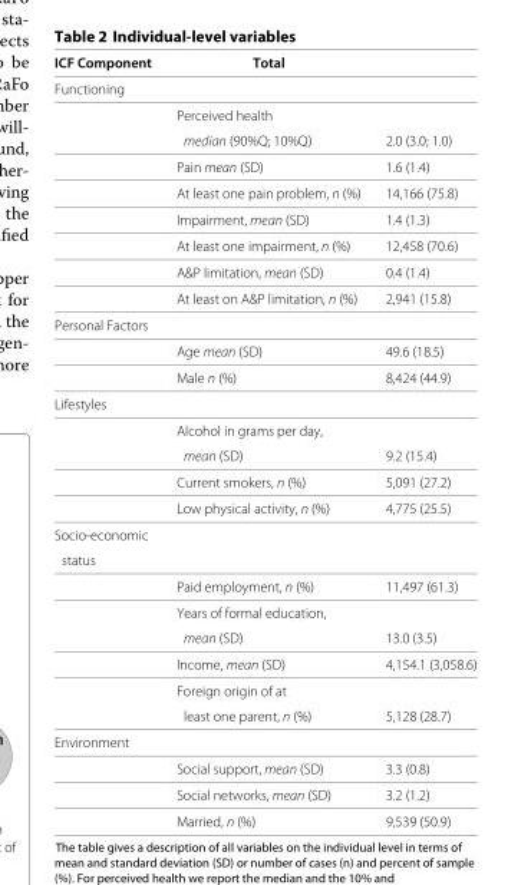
<table><thead><tr><td>ICF Component</td><td>Total</td><td></td></tr></thead><tbody><tr><td colspan="3">Functioning</td></tr><tr><td></td><td>Perceived health</td><td></td></tr><tr><td></td><td>median (90%Q; 10%Q)</td><td>2.0 (3.0; 1.0)</td></tr><tr><td></td><td>Pain mean (SD)</td><td>1.6 (1.4)</td></tr><tr><td></td><td>At least one pain problem, n (%)</td><td>14,166 (75.8)</td></tr><tr><td></td><td>Impairment, mean (SD)</td><td>1.4 (1.3)</td></tr><tr><td></td><td>At least one impairment, n (%)</td><td>12,458 (70.6)</td></tr><tr><td></td><td>A&amp;P limitation, mean (SD)</td><td>0.4 (1.4)</td></tr><tr><td></td><td>At least on A&amp;P limitation, n (%)</td><td>2,941 (15.8)</td></tr><tr><td colspan="3">Personal Factors</td></tr><tr><td></td><td>Age mean (SD)</td><td>49.6 (18.5)</td></tr><tr><td></td><td>Male n (%)</td><td>8,424 (44.9)</td></tr><tr><td colspan="3">Lifestyles</td></tr><tr><td></td><td>Alcohol in grams per day,</td><td></td></tr><tr><td></td><td>mean (SD)</td><td>9.2 (15.4)</td></tr><tr><td></td><td>Current smokers, n (%)</td><td>5,091 (27.2)</td></tr><tr><td></td><td>Low physical activity, n (%)</td><td>4,775 (25.5)</td></tr><tr><td colspan="3">Socio-economic</td></tr><tr><td colspan="3">status</td></tr><tr><td></td><td>Paid employment, n (%)</td><td>11,497 (61.3)</td></tr><tr><td></td><td>Years of formal education,</td><td></td></tr><tr><td></td><td>mean (SD)</td><td>13.0 (3.5)</td></tr><tr><td></td><td>Income, mean (SD)</td><td>4,154.1 (3,058.6)</td></tr><tr><td></td><td>Foreign origin of at</td><td></td></tr><tr><td></td><td>least one parent, n (%)</td><td>5,128 (28.7)</td></tr><tr><td colspan="3">Environment</td></tr><tr><td></td><td>Social support, mean (SD)</td><td>3.3 (0.8)</td></tr><tr><td></td><td>Social networks, mean (SD)</td><td>3.2 (1.2)</td></tr><tr><td></td><td>Married, n (%)</td><td>9,539 (50.9)</td></tr></tbody></table>